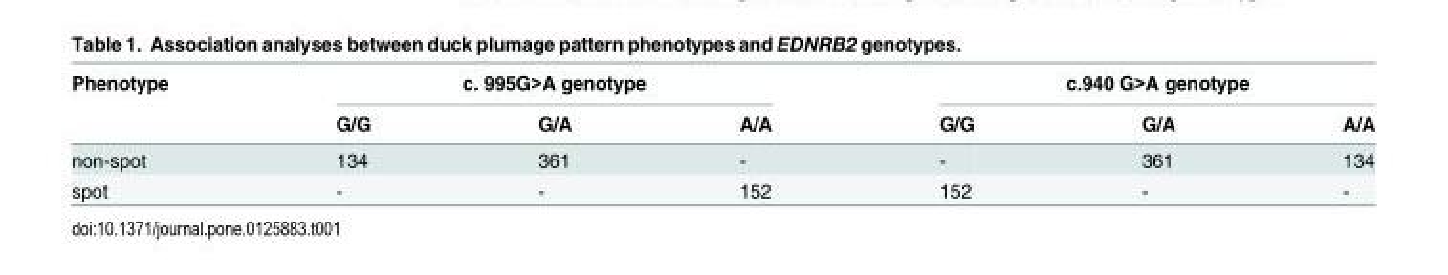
<table><thead><tr><td rowspan="2">Phenotype</td><td colspan="3">c. 995G&gt;A genotype</td><td colspan="3">c.940 G&gt;A genotype</td></tr><tr><td>G/G</td><td>G/A</td><td>A/A</td><td>G/G</td><td>G/A</td><td>A/A</td></tr></thead><tbody><tr><td>non-spot</td><td>134</td><td>361</td><td>-</td><td>-</td><td>361</td><td>134</td></tr><tr><td>spot</td><td>-</td><td>-</td><td>152</td><td>152</td><td>-</td><td>-</td></tr></tbody></table>